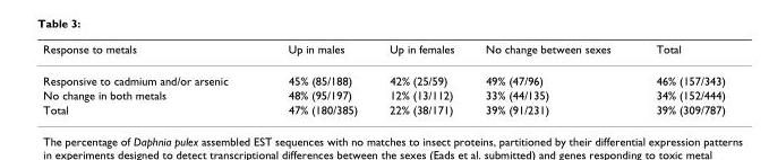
<table><thead><tr><td>Response to metals</td><td>Up in males</td><td>Up in females</td><td>No change between sexes</td><td>Total</td></tr></thead><tbody><tr><td>Responsive to cadmium and/or arsenic</td><td>45% (85/188)</td><td>42% (25/59)</td><td>49% (47/96)</td><td>46% (157/343)</td></tr><tr><td>No change in both metals</td><td>48% (95/197)</td><td>12% (13/112)</td><td>33% (44/135)</td><td>34% (152/444)</td></tr><tr><td>Total</td><td>47% (180/385)</td><td>22% (38/171)</td><td>39% (91/231)</td><td>39% (309/787)</td></tr></tbody></table>